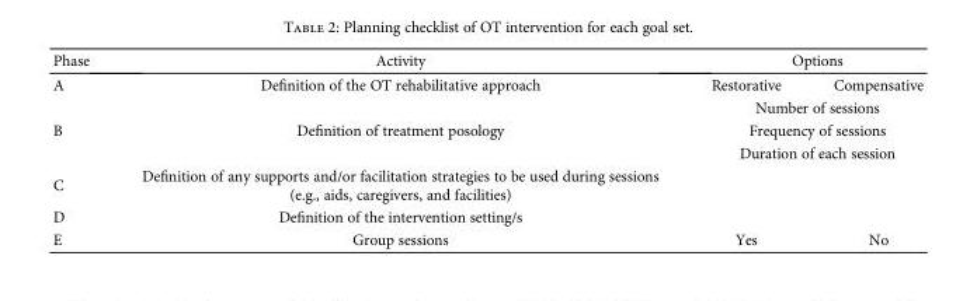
<table><thead><tr><td rowspan="2">Phase A</td><td rowspan="2">Activity Definition of the OT rehabilitative approach</td><td colspan="2">Options</td></tr><tr><td>Restorative</td><td>Compensative</td></tr></thead><tbody><tr><td rowspan="3">B</td><td rowspan="3">Definition of treatment posology</td><td colspan="2">Number of sessions</td></tr><tr><td colspan="2">Frequency of sessions</td></tr><tr><td colspan="2">Duration of each session</td></tr><tr><td>C</td><td>Definition of any supports and/or facilitation strategies to be used during sessions (e.g., aids, caregivers, and facilities)</td><td></td><td></td></tr><tr><td>D</td><td>Definition of the intervention setting/s</td><td></td><td></td></tr><tr><td>E</td><td>Group sessions</td><td>Yes</td><td>No</td></tr></tbody></table>